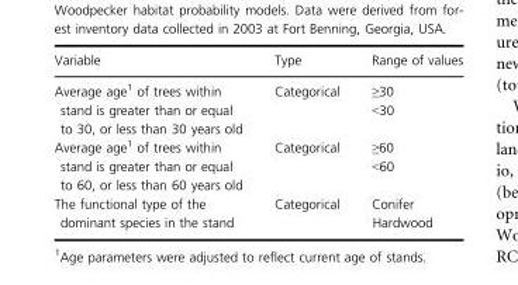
<table><thead><tr><td>Variable</td><td>Type</td><td>Range of values</td></tr></thead><tbody><tr><td>Average age1 of trees within stand is greater than or equal to 30, or less than 30 years old</td><td>Categorical</td><td>≥30 &lt;30</td></tr><tr><td>Average age1 of trees within stand is greater than or equal to 60, or less than 60 years old</td><td>Categorical</td><td>≥60 &lt;60</td></tr><tr><td>The functional type of the dominant species in the stand</td><td>Categorical</td><td>Conifer Hardwood</td></tr></tbody></table>